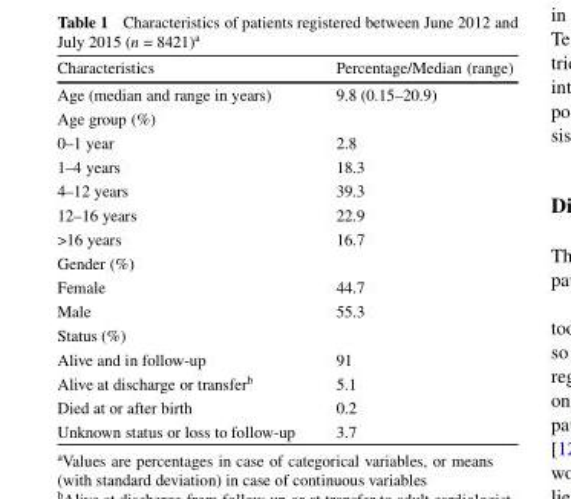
<table><thead><tr><td>Characteristics</td><td>Percentage/Median (range)</td></tr></thead><tbody><tr><td>Age (median and range in years)</td><td>9.8 (0.15–20.9)</td></tr><tr><td colspan="2">Age group (%)</td></tr><tr><td>0–1 year</td><td>2.8</td></tr><tr><td>1–4 years</td><td>18.3</td></tr><tr><td>4–12 years</td><td>39.3</td></tr><tr><td>12–16 years</td><td>22.9</td></tr><tr><td>&gt;16 years</td><td>16.7</td></tr><tr><td colspan="2">Gender (%)</td></tr><tr><td>Female</td><td>44.7</td></tr><tr><td>Male</td><td>55.3</td></tr><tr><td colspan="2">Status (%)</td></tr><tr><td>Alive and in follow-up</td><td>91</td></tr><tr><td>Alive at discharge or transfer<sup>b</sup></td><td>5.1</td></tr><tr><td>Died at or after birth</td><td>0.2</td></tr><tr><td>Unknown status or loss to follow-up</td><td>3.7</td></tr></tbody></table>